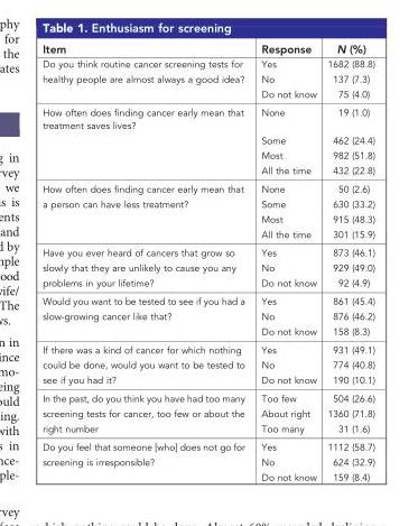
<table><thead><tr><td>Item</td><td>Response</td><td>N (%)</td></tr></thead><tbody><tr><td>Do you think routine cancer screening tests for</td><td>Yes</td><td>1682 (88.8)</td></tr><tr><td rowspan="2">healthy people are almost always a good idea?</td><td>No</td><td>137 (7.3)</td></tr><tr><td>Do not know</td><td>75 (4.0)</td></tr><tr><td rowspan="4">How often does finding cancer early mean that treatment saves lives?</td><td>None</td><td>19 (1.0)</td></tr><tr><td>Some</td><td>462 (24.4)</td></tr><tr><td>Most</td><td>982 (51.8)</td></tr><tr><td>All the time</td><td>432 (22.8)</td></tr><tr><td>How often does finding cancer early mean that</td><td>None</td><td>50 (2.6)</td></tr><tr><td rowspan="3">a person can have less treatment?</td><td>Some</td><td>630 (33.2)</td></tr><tr><td>Most</td><td>915 (48.3)</td></tr><tr><td>All the time</td><td>301 (15.9)</td></tr><tr><td>Have you ever heard of cancers that grow so</td><td>Yes</td><td>873 (46.1)</td></tr><tr><td>slowly that they are unlikely to cause you any</td><td>No</td><td>929 (49.0)</td></tr><tr><td>problems in your lifetime?</td><td>Do not know</td><td>92 (4.9)</td></tr><tr><td>Would you want to be tested to see if you had a</td><td>Yes</td><td>861 (45.4)</td></tr><tr><td rowspan="2">slow-growing cancer like that?</td><td>No</td><td>876 (46.2)</td></tr><tr><td>Do not know</td><td>158 (8.3)</td></tr><tr><td>If there was a kind of cancer for which nothing</td><td>Yes</td><td>931 (49.1)</td></tr><tr><td>could be done, would you want to be tested to</td><td>No</td><td>774 (40.8)</td></tr><tr><td>see if you had it?</td><td>Do not know</td><td>190 (10.1)</td></tr><tr><td>In the past, do you think you have had too many</td><td>Too few</td><td>504 (26.6)</td></tr><tr><td>screening tests for cancer, too few or about the</td><td>About right</td><td>1360 (71.8)</td></tr><tr><td>right number</td><td>Too many</td><td>31 (1.6)</td></tr><tr><td>Do you feel that someone [who] does not go for</td><td>Yes</td><td>1112 (58.7)</td></tr><tr><td rowspan="2">screening is irresponsible?</td><td>No</td><td>624 (32.9)</td></tr><tr><td>Do not know</td><td>159 (8.4)</td></tr></tbody></table>